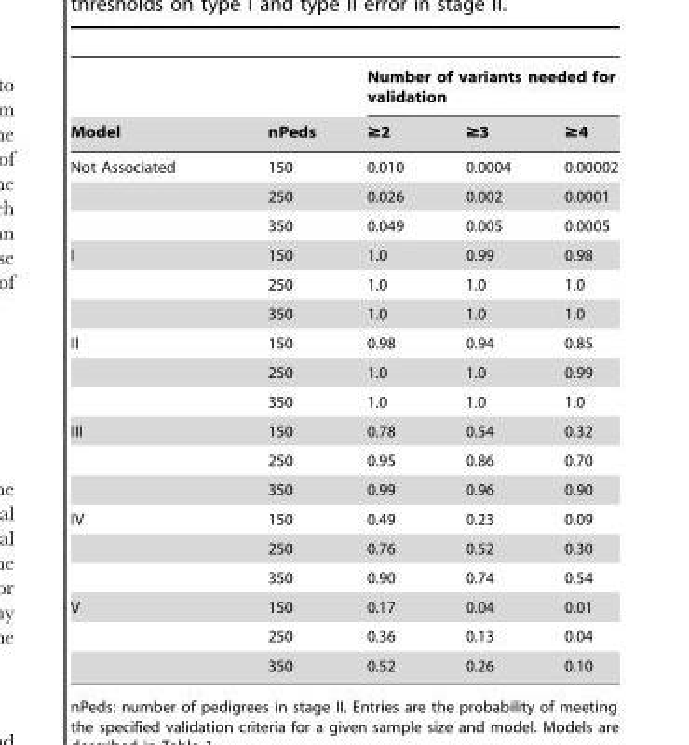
<table><thead><tr><td rowspan="2">Model</td><td rowspan="2">nPeds</td><td colspan="3">Number of variants needed for validation</td></tr><tr><td>≥2</td><td>≥3</td><td>≥4</td></tr></thead><tbody><tr><td rowspan="3">Not Associated</td><td>150</td><td>0.010</td><td>0.0004</td><td>0.00002</td></tr><tr><td>250</td><td>0.026</td><td>0.002</td><td>0.0001</td></tr><tr><td>350</td><td>0.049</td><td>0.005</td><td>0.0005</td></tr><tr><td rowspan="3">I</td><td>150</td><td>1.0</td><td>0.99</td><td>0.98</td></tr><tr><td>250</td><td>1.0</td><td>1.0</td><td>1.0</td></tr><tr><td>350</td><td>1.0</td><td>1.0</td><td>1.0</td></tr><tr><td rowspan="3">II</td><td>150</td><td>0.98</td><td>0.94</td><td>0.85</td></tr><tr><td>250</td><td>1.0</td><td>1.0</td><td>0.99</td></tr><tr><td>350</td><td>1.0</td><td>1.0</td><td>1.0</td></tr><tr><td rowspan="3">III</td><td>150</td><td>0.78</td><td>0.54</td><td>0.32</td></tr><tr><td>250</td><td>0.95</td><td>0.86</td><td>0.70</td></tr><tr><td>350</td><td>0.99</td><td>0.96</td><td>0.90</td></tr><tr><td rowspan="3">IV</td><td>150</td><td>0.49</td><td>0.23</td><td>0.09</td></tr><tr><td>250</td><td>0.76</td><td>0.52</td><td>0.30</td></tr><tr><td>350</td><td>0.90</td><td>0.74</td><td>0.54</td></tr><tr><td rowspan="3">V</td><td>150</td><td>0.17</td><td>0.04</td><td>0.01</td></tr><tr><td>250</td><td>0.36</td><td>0.13</td><td>0.04</td></tr><tr><td>350</td><td>0.52</td><td>0.26</td><td>0.10</td></tr></tbody></table>